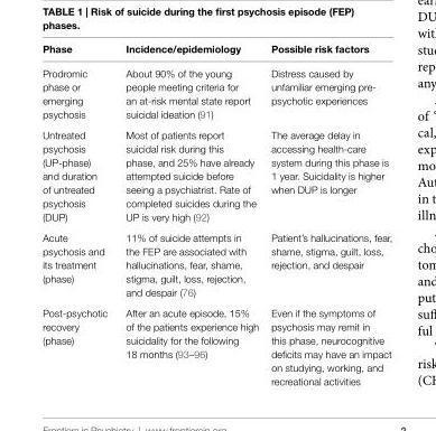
<table><thead><tr><td>Phase</td><td>incidence/epidemiology</td><td>Possible risk factors</td></tr></thead><tbody><tr><td>Prodromic phase or emerging psychosis</td><td>About 90% of the young people meeting criteria for an at-risk mental state report suicidal ideation (91)</td><td>Distress caused by unfamiliar emerging pre- psychotic experiences</td></tr><tr><td>Untreated psychosis (UP-phase) and duration of untreated psychosis (DUP)</td><td>Most of patients report suicidal risk during this phase, and 25% have already attempted suicide before seeing a psychiatrist. Rate of completed suicides during the UP is very high (92)</td><td>The average delay in accessing health-care system during this phase is 1 year. Suicidality is higher when DUP is longer</td></tr><tr><td>Acute psychosis and its treatment (phase)</td><td>11% of suicide attempts in the FEP are associated with hallucinations, fear, shame, stigma, guilt, loss, rejection, and despair (76)</td><td>Patient’s hallucinations, fear, shame, stigma, guilt, loss, rejection, and despair</td></tr><tr><td>Post-psychotic recovery (phase)</td><td>After an acute episode, 15% of the patients experience high suicidality for the following 18 months (93–96)</td><td>Even if the symptoms of psychosis may remit in this phase, neurocognitive deficits may have an impact on studying, working, and recreational activities</td></tr></tbody></table>